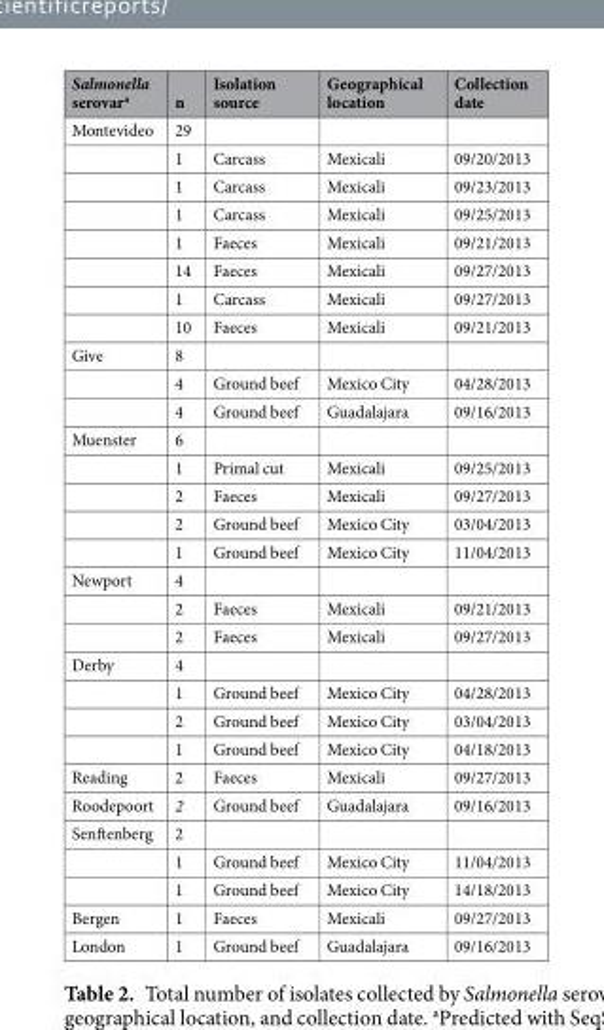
<table><thead><tr><td>Salmonella serovar<sup>a</sup></td><td>n</td><td>Isolation source</td><td>Geographical location</td><td>Collection date</td></tr></thead><tbody><tr><td rowspan="8">Montevideo</td><td>29</td><td></td><td></td><td></td></tr><tr><td>1</td><td>Carcass</td><td>Mexicali</td><td>09/20/2013</td></tr><tr><td>1</td><td>Carcass</td><td>Mexicali</td><td>09/23/2013</td></tr><tr><td>1</td><td>Carcass</td><td>Mexicali</td><td>09/25/2013</td></tr><tr><td>1</td><td>Faeces</td><td>Mexicali</td><td>09/21/2013</td></tr><tr><td>14</td><td>Faeces</td><td>Mexicali</td><td>09/27/2013</td></tr><tr><td>1</td><td>Carcass</td><td>Mexicali</td><td>09/27/2013</td></tr><tr><td>10</td><td>Faeces</td><td>Mexicali</td><td>09/21/2013</td></tr><tr><td rowspan="3">Give</td><td>8</td><td></td><td></td><td></td></tr><tr><td>4</td><td>Ground beef</td><td>Mexico City</td><td>04/28/2013</td></tr><tr><td>4</td><td>Ground beef</td><td>Guadalajara</td><td>09/16/2013</td></tr><tr><td rowspan="5">Muenster</td><td>6</td><td></td><td></td><td></td></tr><tr><td>1</td><td>Primal cut</td><td>Mexicali</td><td>09/25/2013</td></tr><tr><td>2</td><td>Faeces</td><td>Mexicali</td><td>09/27/2013</td></tr><tr><td>2</td><td>Ground beef</td><td>Mexico City</td><td>03/04/2013</td></tr><tr><td>1</td><td>Ground beef</td><td>Mexico City</td><td>11/04/2013</td></tr><tr><td rowspan="3">Newport</td><td>4</td><td></td><td></td><td></td></tr><tr><td>2</td><td>Faeces</td><td>Mexicali</td><td>09/21/2013</td></tr><tr><td>2</td><td>Faeces</td><td>Mexicali</td><td>09/27/2013</td></tr><tr><td rowspan="4">Derby</td><td>4</td><td></td><td></td><td></td></tr><tr><td>1</td><td>Ground beef</td><td>Mexico City</td><td>04/28/2013</td></tr><tr><td>2</td><td>Ground beef</td><td>Mexico City</td><td>03/04/2013</td></tr><tr><td>1</td><td>Ground beef</td><td>Mexico City</td><td>04/18/2013</td></tr><tr><td>Reading</td><td>2</td><td>Faeces</td><td>Mexicali</td><td>09/27/2013</td></tr><tr><td>Roodepoort</td><td>2</td><td>Ground beef</td><td>Guadalajara</td><td>09/16/2013</td></tr><tr><td rowspan="3">Senftenberg</td><td>2</td><td></td><td></td><td></td></tr><tr><td>1</td><td>Ground beef</td><td>Mexico City</td><td>11/04/2013</td></tr><tr><td>1</td><td>Ground beef</td><td>Mexico City</td><td>14/18/2013</td></tr><tr><td>Bergen</td><td>1</td><td>Faeces</td><td>Mexicali</td><td>09/27/2013</td></tr><tr><td>London</td><td>1</td><td>Ground beef</td><td>Guadalajara</td><td>09/16/2013</td></tr></tbody></table>